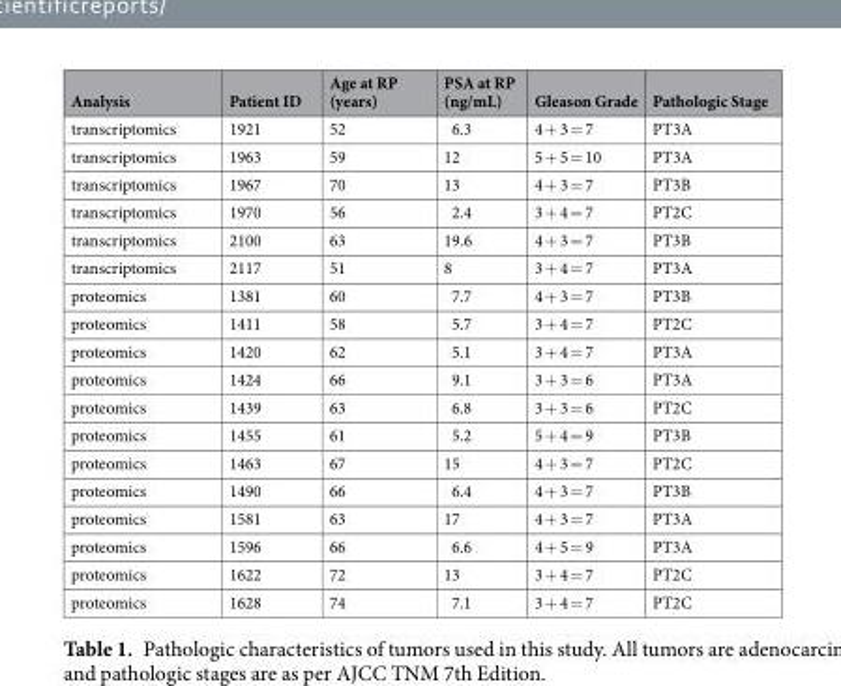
<table><thead><tr><td>Analysis</td><td>Patient ID</td><td>Age at RP (years)</td><td>PSA at RP (ng/mL)</td><td>Gleason Grade</td><td>Pathologic Stage</td></tr></thead><tbody><tr><td>transcriptomics</td><td>1921</td><td>52</td><td>6.3</td><td>4 + 3 = 7</td><td>PT3A</td></tr><tr><td>transcriptomics</td><td>1963</td><td>59</td><td>12</td><td>5 + 5 = 10</td><td>PT3A</td></tr><tr><td>transcriptomics</td><td>1967</td><td>70</td><td>13</td><td>4 + 3 = 7</td><td>PT3B</td></tr><tr><td>transcriptomics</td><td>1970</td><td>56</td><td>2.4</td><td>3 + 4 = 7</td><td>PT2C</td></tr><tr><td>transcriptomics</td><td>2100</td><td>63</td><td>19.6</td><td>4 + 3 = 7</td><td>PT3B</td></tr><tr><td>transcriptomics</td><td>2117</td><td>51</td><td>8</td><td>3 + 4 = 7</td><td>PT3A</td></tr><tr><td>proteomics</td><td>1381</td><td>60</td><td>7.7</td><td>4 + 3 = 7</td><td>PT3B</td></tr><tr><td>proteomics</td><td>1411</td><td>58</td><td>5.7</td><td>3 + 4 = 7</td><td>PT2C</td></tr><tr><td>proteomics</td><td>1420</td><td>62</td><td>5.1</td><td>3 + 4 = 7</td><td>PT3A</td></tr><tr><td>proteomics</td><td>1424</td><td>66</td><td>9.1</td><td>3 + 3 = 6</td><td>PT3A</td></tr><tr><td>proteomics</td><td>1439</td><td>63</td><td>6.8</td><td>3 + 3 = 6</td><td>PT2C</td></tr><tr><td>proteomics</td><td>1455</td><td>61</td><td>5.2</td><td>5 + 4 = 9</td><td>PT3B</td></tr><tr><td>proteomics</td><td>1463</td><td>67</td><td>15</td><td>4 + 3 = 7</td><td>PT2C</td></tr><tr><td>proteomics</td><td>1490</td><td>66</td><td>6.4</td><td>4 + 3 = 7</td><td>PT3B</td></tr><tr><td>proteomics</td><td>1581</td><td>63</td><td>17</td><td>4 + 3 = 7</td><td>PT3A</td></tr><tr><td>proteomics</td><td>1596</td><td>66</td><td>6.6</td><td>4 + 5 = 9</td><td>PT3A</td></tr><tr><td>proteomics</td><td>1622</td><td>72</td><td>13</td><td>3 + 4 = 7</td><td>PT2C</td></tr><tr><td>proteomics</td><td>1628</td><td>74</td><td>7.1</td><td>3 + 4 = 7</td><td>PT2C</td></tr></tbody></table>